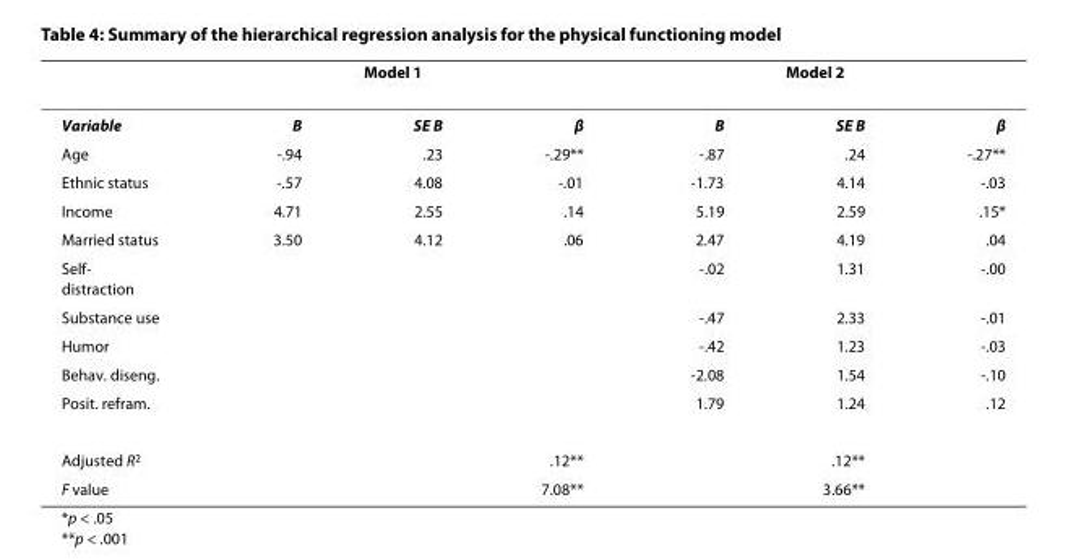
<table><thead><tr><td rowspan="2">Variable</td><td colspan="3">Model 1</td><td colspan="3">Model 2</td></tr><tr><td>B</td><td>SE B</td><td>β</td><td>B</td><td>SE B</td><td>β</td></tr></thead><tbody><tr><td>Age</td><td>-.94</td><td>.23</td><td>-.29**</td><td>-.87</td><td>.24</td><td>-.27**</td></tr><tr><td>Ethnic status</td><td>-.57</td><td>4.08</td><td>-.01</td><td>-1.73</td><td>4.14</td><td>-.03</td></tr><tr><td>Income</td><td>4.71</td><td>2.55</td><td>.14</td><td>5.19</td><td>2.59</td><td>.15*</td></tr><tr><td>Married status</td><td>3.50</td><td>4.12</td><td>.06</td><td>2.47</td><td>4.19</td><td>.04</td></tr><tr><td>Self- distraction</td><td></td><td></td><td></td><td>-.02</td><td>1.31</td><td>-.00</td></tr><tr><td>Substance use</td><td></td><td></td><td></td><td>-.47</td><td>2.33</td><td>-.01</td></tr><tr><td>Humor</td><td></td><td></td><td></td><td>-.42</td><td>1.23</td><td>-.03</td></tr><tr><td>Behav. diseng.</td><td></td><td></td><td></td><td>-2.08</td><td>1.54</td><td>-.10</td></tr><tr><td>Posit. refram.</td><td></td><td></td><td></td><td>1.79</td><td>1.24</td><td>.12</td></tr><tr><td>Adjusted R<sup>2</sup></td><td></td><td></td><td>.12**</td><td></td><td>.12**</td><td></td></tr><tr><td>F value</td><td></td><td></td><td>7.08**</td><td></td><td>3.66**</td><td></td></tr></tbody></table>